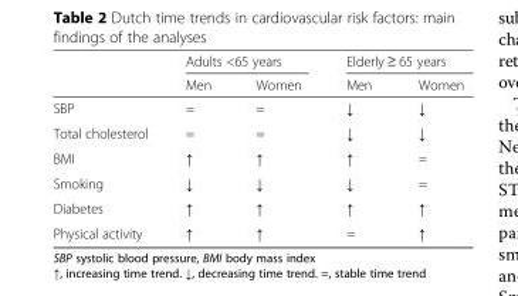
<table><thead><tr><td rowspan="2"></td><td colspan="2">Adults &lt;65 years</td><td colspan="2">Elderly ≥ 65 years</td></tr><tr><td>Men</td><td>Women</td><td>Men</td><td>Women</td></tr></thead><tbody><tr><td>SBP</td><td>=</td><td>=</td><td>↓</td><td>↓</td></tr><tr><td>Total cholesterol</td><td>=</td><td>=</td><td>↓</td><td>↓</td></tr><tr><td>BMI</td><td>↑</td><td>↑</td><td>↑</td><td>=</td></tr><tr><td>Smoking</td><td>↓</td><td>↓</td><td>↓</td><td>=</td></tr><tr><td>Diabetes</td><td>↑</td><td>↑</td><td>↑</td><td>↑</td></tr><tr><td>Physical activity</td><td>↑</td><td>↑</td><td>=</td><td>↑</td></tr></tbody></table>